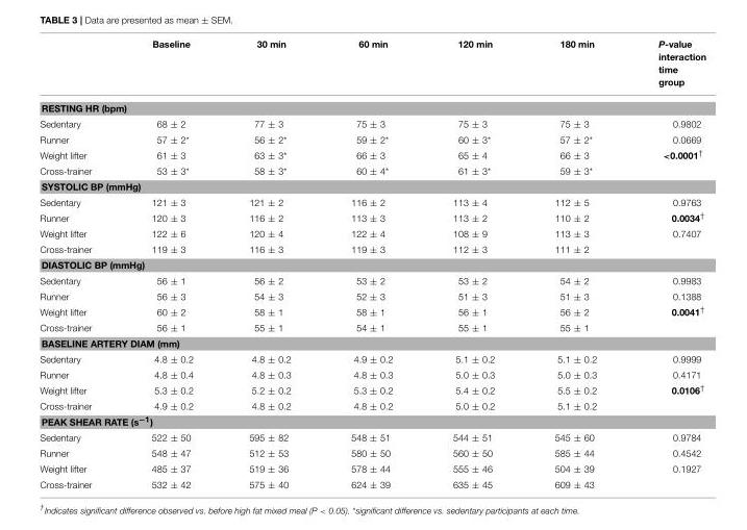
<table><thead><tr><td></td><td>Baseline</td><td>30 min</td><td>60 min</td><td>120 min</td><td>180 min</td><td>P-value interaction time group</td></tr></thead><tbody><tr><td colspan="7">RESTING HR (bpm)</td></tr><tr><td>Sedentary</td><td>68 ± 2</td><td>77 ± 3</td><td>75 ± 3</td><td>75 ± 3</td><td>75 ± 3</td><td>0.9802</td></tr><tr><td>Runner</td><td>57 ± 2*</td><td>56 ± 2*</td><td>59 ± 2*</td><td>60 ± 3*</td><td>57 ± 2*</td><td>0.0669</td></tr><tr><td>Weight lifter</td><td>61 ± 3</td><td>63 ± 3*</td><td>66 ± 3</td><td>65 ± 4</td><td>66 ± 3</td><td>&lt;0.0001<sup>†</sup></td></tr><tr><td>Cross-trainer</td><td>53 ± 3*</td><td>58 ± 3*</td><td>60 ± 4*</td><td>61 ± 3*</td><td>59 ± 3*</td><td></td></tr><tr><td colspan="7">SYSTOLIC BP (mmHg)</td></tr><tr><td>Sedentary</td><td>121 ± 3</td><td>121 ± 2</td><td>116 ± 2</td><td>113 ± 4</td><td>112 ± 5</td><td>0.9763</td></tr><tr><td>Runner</td><td>120 ± 3</td><td>116 ± 2</td><td>113 ± 3</td><td>113 ± 2</td><td>110 ± 2</td><td>0.0034<sup>†</sup></td></tr><tr><td>Weight lifter</td><td>122 ± 6</td><td>120 ± 4</td><td>122 ± 4</td><td>108 ± 9</td><td>113 ± 3</td><td>0.7407</td></tr><tr><td>Cross-trainer</td><td>119 ± 3</td><td>116 ± 3</td><td>119 ± 3</td><td>112 ± 3</td><td>111 ± 2</td><td></td></tr><tr><td colspan="7">DIASTOLIC BP (mmHg)</td></tr><tr><td>Sedentary</td><td>56 ± 1</td><td>56 ± 2</td><td>53 ± 2</td><td>53 ± 2</td><td>54 ± 2</td><td>0.9983</td></tr><tr><td>Runner</td><td>56 ± 3</td><td>54 ± 3</td><td>52 ± 3</td><td>51 ± 3</td><td>51 ± 3</td><td>0.1388</td></tr><tr><td>Weight lifter</td><td>60 ± 2</td><td>58 ± 1</td><td>58 ± 1</td><td>56 ± 1</td><td>56 ± 2</td><td>0.0041<sup>†</sup></td></tr><tr><td>Cross-trainer</td><td>56 ± 1</td><td>55 ± 1</td><td>54 ± 1</td><td>55 ± 1</td><td>55 ± 1</td><td></td></tr><tr><td colspan="7">BASELINE ARTERY DIAM (mm)</td></tr><tr><td>Sedentary</td><td>4.8 ± 0.2</td><td>4.8 ± 0.2</td><td>4.9 ± 0.2</td><td>5.1 ± 0.2</td><td>5.1 ± 0.2</td><td>0.9999</td></tr><tr><td>Runner</td><td>4.8 ± 0.4</td><td>4.8 ± 0.3</td><td>4.8 ± 0.3</td><td>5.0 ± 0.3</td><td>5.0 ± 0.3</td><td>0.4171</td></tr><tr><td>Weight lifter</td><td>5.3 ± 0.2</td><td>5.2 ± 0.2</td><td>5.3 ± 0.2</td><td>5.4 ± 0.2</td><td>5.5 ± 0.2</td><td>0.0106<sup>†</sup></td></tr><tr><td>Cross-trainer</td><td>4.9 ± 0.2</td><td>4.8 ± 0.2</td><td>4.8 ± 0.2</td><td>5.0 ± 0.2</td><td>5.1 ± 0.2</td><td></td></tr><tr><td colspan="7">PEAK SHEAR RATE (s<sup>−1</sup>)</td></tr><tr><td>Sedentary</td><td>522 ± 50</td><td>595 ± 82</td><td>548 ± 51</td><td>544 ± 51</td><td>545 ± 60</td><td>0.9784</td></tr><tr><td>Runner</td><td>548 ± 47</td><td>512 ± 53</td><td>580 ± 50</td><td>560 ± 50</td><td>585 ± 44</td><td>0.4542</td></tr><tr><td>Weight lifter</td><td>485 ± 37</td><td>519 ± 36</td><td>578 ± 44</td><td>555 ± 46</td><td>504 ± 39</td><td>0.1927</td></tr><tr><td>Cross-trainer</td><td>532 ± 42</td><td>575 ± 40</td><td>624 ± 39</td><td>635 ± 45</td><td>609 ± 43</td><td></td></tr></tbody></table>